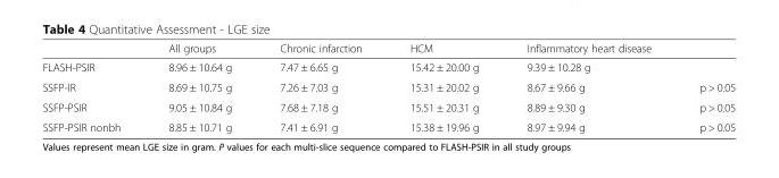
<table><thead><tr><td></td><td>All groups</td><td>Chronic infarction</td><td>HCM</td><td>Inflammatory heart disease</td><td></td></tr></thead><tbody><tr><td>FLASH-PSIR</td><td>8.96 ± 10.64 g</td><td>7.47 ± 6.65 g</td><td>15.42 ± 20.00 g</td><td>9.39 ± 10.28 g</td><td></td></tr><tr><td>SSFP-IR</td><td>8.69 ± 10.75 g</td><td>7.26 ± 7.03 g</td><td>15.31 ± 20.02 g</td><td>8.67 ± 9.66 g</td><td>p &gt; 0.05</td></tr><tr><td>SSFP-PSIR</td><td>9.05 ± 10.84 g</td><td>7.68 ± 7.18 g</td><td>15.51 ± 20.31 g</td><td>8.89 ± 9.30 g</td><td>p &gt; 0.05</td></tr><tr><td>SSFP-PSIR nonbh</td><td>8.85 ± 10.71 g</td><td>7.41 ± 6.91 g</td><td>15.38 ± 19.96 g</td><td>8.97 ± 9.94 g</td><td>p &gt; 0.05</td></tr></tbody></table>